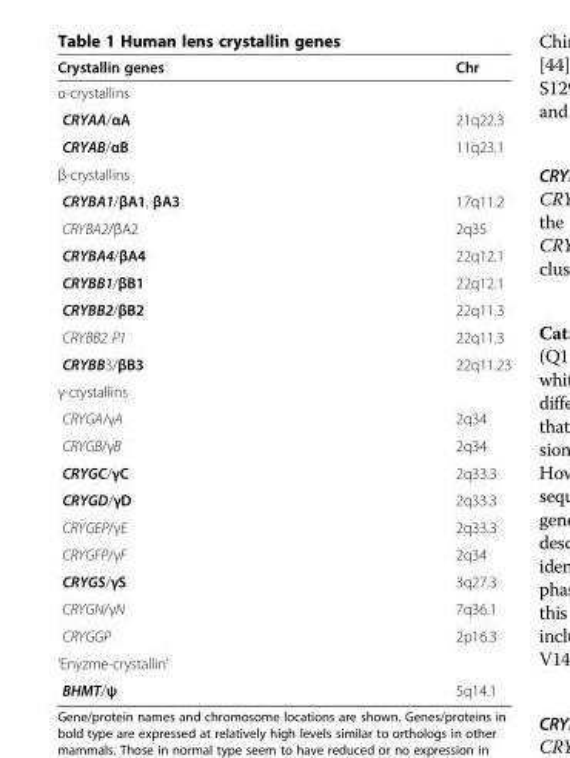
<table><thead><tr><td>Crystallin genes</td><td>Chr</td></tr></thead><tbody><tr><td colspan="2">α-crystallins</td></tr><tr><td>CRYAA/αA</td><td>21q22.3</td></tr><tr><td>CRYAB/αB</td><td>11q23.1</td></tr><tr><td colspan="2">β-crystallins</td></tr><tr><td>CRYBA1/βA1, βA3</td><td>17q11.2</td></tr><tr><td>CRYBA2/βA2</td><td>2q35</td></tr><tr><td>CRYBA4/βA4</td><td>22q12.1</td></tr><tr><td>CRYBB1/βB1</td><td>22q12.1</td></tr><tr><td>CRYBB2/βB2</td><td>22q11.3</td></tr><tr><td>CRYBB2 P1</td><td>22q11.3</td></tr><tr><td>CRYBB3/βB3</td><td>22q11.23</td></tr><tr><td colspan="2">γ-crystallins</td></tr><tr><td>CRYGA/γA</td><td>2q34</td></tr><tr><td>CRYGB/γB</td><td>2q34</td></tr><tr><td>CRYGC/γC</td><td>2q33.3</td></tr><tr><td>CRYGD/γD</td><td>2q33.3</td></tr><tr><td>CRYGEP/γE</td><td>2q33.3</td></tr><tr><td>CRYGFP/γF</td><td>2q34</td></tr><tr><td>CRYGS/γS</td><td>3q27.3</td></tr><tr><td>CRYGN/γN</td><td>7q36.1</td></tr><tr><td>CRYGGP</td><td>2p16.3</td></tr><tr><td colspan="2">‘Enyzme-crystallin’</td></tr><tr><td>BHMT/ψ</td><td>5q14.1</td></tr></tbody></table>